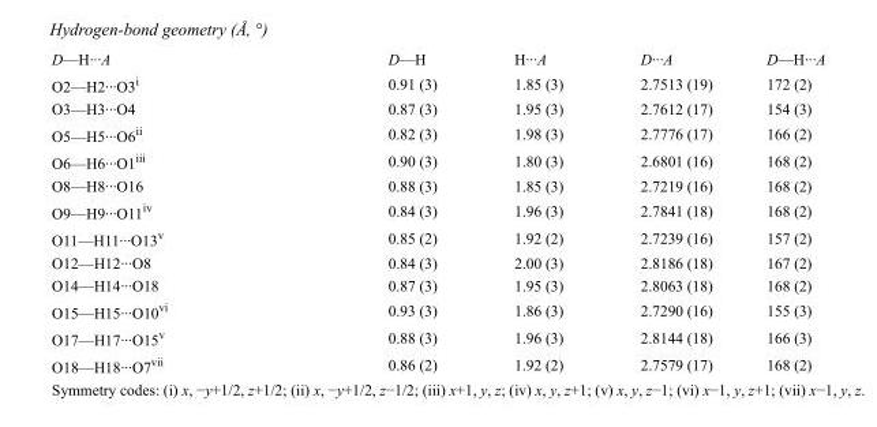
<table><tbody><tr><td>D—H···A</td><td>D—H</td><td>H···A</td><td>D···A</td><td>D—H···A</td></tr><tr><td>O2—H2···O3<sup>i</sup></td><td>0.91 (3)</td><td>1.85 (3)</td><td>2.7513 (19)</td><td>172 (2)</td></tr><tr><td>O3—H3···O4</td><td>0.87 (3)</td><td>1.95 (3)</td><td>2.7612 (17)</td><td>154 (3)</td></tr><tr><td>O5—H5···O6<sup>ii</sup></td><td>0.82 (3)</td><td>1.98 (3)</td><td>2.7776 (17)</td><td>166 (2)</td></tr><tr><td>O6—H6···O1<sup>iii</sup></td><td>0.90 (3)</td><td>1.80 (3)</td><td>2.6801 (16)</td><td>168 (2)</td></tr><tr><td>O8—H8···O16</td><td>0.88 (3)</td><td>1.85 (3)</td><td>2.7219 (16)</td><td>168 (2)</td></tr><tr><td>O9—H9···O11<sup>iv</sup></td><td>0.84 (3)</td><td>1.96 (3)</td><td>2.7841 (18)</td><td>168 (2)</td></tr><tr><td>O11—H11···O13<sup>v</sup></td><td>0.85 (2)</td><td>1.92 (2)</td><td>2.7239 (16)</td><td>157 (2)</td></tr><tr><td>O12—H12···O8</td><td>0.84 (3)</td><td>2.00 (3)</td><td>2.8186 (18)</td><td>167 (2)</td></tr><tr><td>O14—H14···O18</td><td>0.87 (3)</td><td>1.95 (3)</td><td>2.8063 (18)</td><td>168 (2)</td></tr><tr><td>O15—H15···O10<sup>vi</sup></td><td>0.93 (3)</td><td>1.86 (3)</td><td>2.7290 (16)</td><td>155 (3)</td></tr><tr><td>O17—H17···O15<sup>v</sup></td><td>0.88 (3)</td><td>1.96 (3)</td><td>2.8144 (18)</td><td>166 (3)</td></tr><tr><td>O18—H18···O7<sup>vii</sup></td><td>0.86 (2)</td><td>1.92 (2)</td><td>2.7579 (17)</td><td>168 (2)</td></tr></tbody></table>